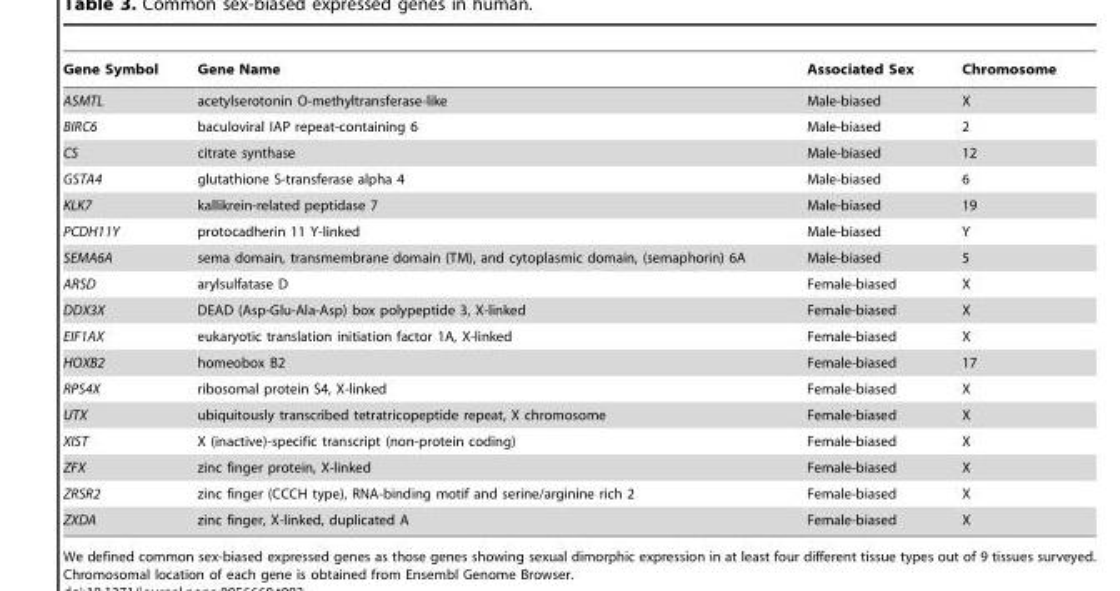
<table><thead><tr><td>Gene Symbol</td><td>Gene Name</td><td>Associated Sex</td><td>Chromosome</td></tr></thead><tbody><tr><td>ASMTL</td><td>acetylserotonin O-methyltransferase-like</td><td>Male-biased</td><td>X</td></tr><tr><td>BIRC6</td><td>baculoviral IAP repeat-containing 6</td><td>Male-biased</td><td>2</td></tr><tr><td>CS</td><td>citrate synthase</td><td>Male-biased</td><td>12</td></tr><tr><td>GSTA4</td><td>glutathione S-transferase alpha 4</td><td>Male-biased</td><td>6</td></tr><tr><td>KLK7</td><td>kallikrein-related peptidase 7</td><td>Male-biased</td><td>19</td></tr><tr><td>PCDH11Y</td><td>protocadherin 11 Y-linked</td><td>Male-biased</td><td>Y</td></tr><tr><td>SEMA6A</td><td>sema domain, transmembrane domain (TM), and cytoplasmic domain, (semaphorin) 6A</td><td>Male-biased</td><td>5</td></tr><tr><td>ARSD</td><td>arylsulfatase D</td><td>Female-biased</td><td>X</td></tr><tr><td>DDX3X</td><td>DEAD (Asp-Glu-Ala-Asp) box polypeptide 3, X-linked</td><td>Female-biased</td><td>X</td></tr><tr><td>EIF1AX</td><td>eukaryotic translation initiation factor 1A, X-linked</td><td>Female-biased</td><td>X</td></tr><tr><td>HOXB2</td><td>homeobox B2</td><td>Female-biased</td><td>17</td></tr><tr><td>RPS4X</td><td>ribosomal protein S4, X-linked</td><td>Female-biased</td><td>X</td></tr><tr><td>UTX</td><td>ubiquitously transcribed tetratricopeptide repeat, X chromosome</td><td>Female-biased</td><td>X</td></tr><tr><td>XIST</td><td>X (inactive)-specific transcript (non-protein coding)</td><td>Female-biased</td><td>X</td></tr><tr><td>ZFX</td><td>zinc finger protein, X-linked</td><td>Female-biased</td><td>X</td></tr><tr><td>ZRSR2</td><td>zinc finger (CCCH type), RNA-binding motif and serine/arginine rich 2</td><td>Female-biased</td><td>X</td></tr><tr><td>ZXDA</td><td>zinc finger, X-linked, duplicated A</td><td>Female-biased</td><td>X</td></tr></tbody></table>